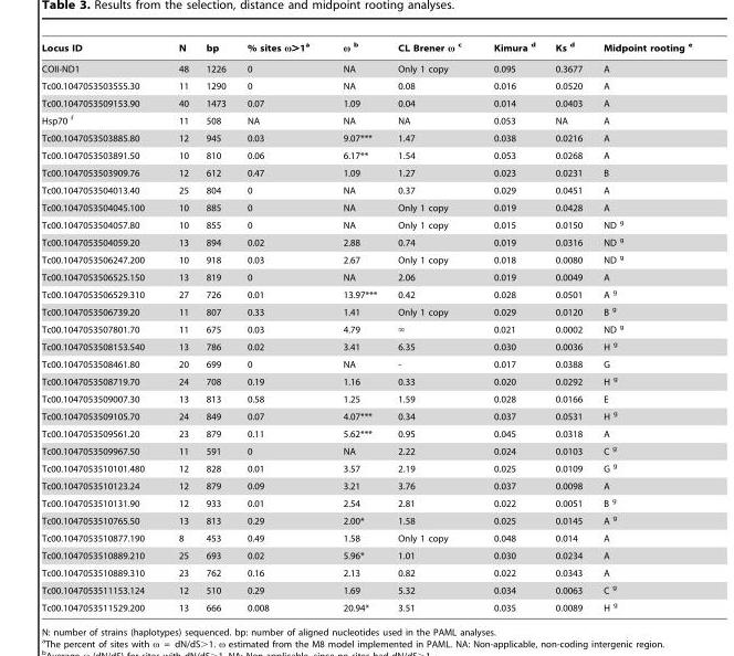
<table><thead><tr><td>Locus ID</td><td>N</td><td>bp</td><td>% sites ω&gt;1<sup>a</sup></td><td>ω b</td><td>CL Brener ω c</td><td>Kimura d</td><td>Ks d</td><td>Midpoint rooting e</td></tr></thead><tbody><tr><td>COII-ND1</td><td>48</td><td>1226</td><td>0</td><td>NA</td><td>Only 1 copy</td><td>0.095</td><td>0.3677</td><td>A</td></tr><tr><td>Tc00.1047053503555.30</td><td>11</td><td>1290</td><td>0</td><td>NA</td><td>0.08</td><td>0.016</td><td>0.0520</td><td>A</td></tr><tr><td>Tc00.1047053509153.90</td><td>40</td><td>1473</td><td>0.07</td><td>1.09</td><td>0.04</td><td>0.014</td><td>0.0403</td><td>A</td></tr><tr><td>Hsp70 f</td><td>11</td><td>508</td><td>NA</td><td>NA</td><td>NA</td><td>0.053</td><td>NA</td><td>A</td></tr><tr><td>Tc00.1047053503885.80</td><td>12</td><td>945</td><td>0.03</td><td>9.07***</td><td>1.47</td><td>0.038</td><td>0.0216</td><td>A</td></tr><tr><td>Tc00.1047053503891.50</td><td>10</td><td>810</td><td>0.06</td><td>6.17**</td><td>1.54</td><td>0.053</td><td>0.0268</td><td>A</td></tr><tr><td>Tc00.1047053503909.76</td><td>12</td><td>612</td><td>0.47</td><td>1.09</td><td>1.27</td><td>0.023</td><td>0.0231</td><td>B</td></tr><tr><td>Tc00.1047053504013.40</td><td>25</td><td>804</td><td>0</td><td>NA</td><td>0.37</td><td>0.029</td><td>0.0451</td><td>A</td></tr><tr><td>Tc00.1047053504045.100</td><td>10</td><td>885</td><td>0</td><td>NA</td><td>Only 1 copy</td><td>0.019</td><td>0.0428</td><td>A</td></tr><tr><td>Tc00.1047053504057.80</td><td>10</td><td>855</td><td>0</td><td>NA</td><td>Only 1 copy</td><td>0.015</td><td>0.0150</td><td>ND g</td></tr><tr><td>Tc00.1047053504059.20</td><td>13</td><td>894</td><td>0.02</td><td>2.88</td><td>0.74</td><td>0.019</td><td>0.0316</td><td>ND g</td></tr><tr><td>Tc00.1047053506247.200</td><td>10</td><td>918</td><td>0.03</td><td>2.67</td><td>Only 1 copy</td><td>0.018</td><td>0.0080</td><td>ND g</td></tr><tr><td>Tc00.1047053506525.150</td><td>13</td><td>819</td><td>0</td><td>NA</td><td>2.06</td><td>0.019</td><td>0.0049</td><td>A</td></tr><tr><td>Tc00.1047053506529.310</td><td>27</td><td>726</td><td>0.01</td><td>13.97***</td><td>0.42</td><td>0.028</td><td>0.0501</td><td>A g</td></tr><tr><td>Tc00.1047053506739.20</td><td>11</td><td>807</td><td>0.33</td><td>1.41</td><td>Only 1 copy</td><td>0.029</td><td>0.0120</td><td>B g</td></tr><tr><td>Tc00.1047053507801.70</td><td>11</td><td>675</td><td>0.03</td><td>4.79</td><td>‘</td><td>0.021</td><td>0.0002</td><td>ND g</td></tr><tr><td>Tc00.1047053508153.540</td><td>13</td><td>786</td><td>0.02</td><td>3.41</td><td>6.35</td><td>0.030</td><td>0.0036</td><td>H g</td></tr><tr><td>Tc00.1047053508461.80</td><td>20</td><td>699</td><td>0</td><td>NA</td><td>-</td><td>0.017</td><td>0.0388</td><td>G</td></tr><tr><td>Tc00.1047053508719.70</td><td>24</td><td>708</td><td>0.19</td><td>1.16</td><td>0.33</td><td>0.020</td><td>0.0292</td><td>H g</td></tr><tr><td>Tc00.1047053509007.30</td><td>13</td><td>813</td><td>0.58</td><td>1.25</td><td>1.59</td><td>0.028</td><td>0.0166</td><td>E</td></tr><tr><td>Tc00.1047053509105.70</td><td>24</td><td>849</td><td>0.07</td><td>4.07***</td><td>0.34</td><td>0.037</td><td>0.0531</td><td>H g</td></tr><tr><td>Tc00.1047053509561.20</td><td>23</td><td>879</td><td>0.11</td><td>5.62***</td><td>0.95</td><td>0.045</td><td>0.0318</td><td>A</td></tr><tr><td>Tc00.1047053509967.50</td><td>11</td><td>591</td><td>0</td><td>NA</td><td>2.22</td><td>0.024</td><td>0.0103</td><td>C g</td></tr><tr><td>Tc00.1047053510101.480</td><td>12</td><td>828</td><td>0.01</td><td>3.57</td><td>2.19</td><td>0.025</td><td>0.0109</td><td>G g</td></tr><tr><td>Tc00.1047053510123.24</td><td>12</td><td>879</td><td>0.09</td><td>3.21</td><td>3.76</td><td>0.037</td><td>0.0098</td><td>A</td></tr><tr><td>Tc00.1047053510131.90</td><td>12</td><td>933</td><td>0.01</td><td>2.54</td><td>2.81</td><td>0.022</td><td>0.0051</td><td>B g</td></tr><tr><td>Tc00.1047053510765.50</td><td>13</td><td>813</td><td>0.29</td><td>2.00*</td><td>1.58</td><td>0.025</td><td>0.0145</td><td>A g</td></tr><tr><td>Tc00.1047053510877.190</td><td>8</td><td>453</td><td>0.49</td><td>1.58</td><td>Only 1 copy</td><td>0.048</td><td>0.014</td><td>A</td></tr><tr><td>Tc00.1047053510889.210</td><td>25</td><td>693</td><td>0.02</td><td>5.96*</td><td>1.01</td><td>0.030</td><td>0.0234</td><td>A</td></tr><tr><td>Tc00.1047053510889.310</td><td>23</td><td>762</td><td>0.16</td><td>2.13</td><td>0.82</td><td>0.022</td><td>0.0343</td><td>A</td></tr><tr><td>Tc00.1047053511153.124</td><td>12</td><td>510</td><td>0.29</td><td>1.69</td><td>5.32</td><td>0.034</td><td>0.0063</td><td>C g</td></tr><tr><td>Tc00.1047053511529.200</td><td>13</td><td>666</td><td>0.008</td><td>20.94*</td><td>3.51</td><td>0.035</td><td>0.0089</td><td>H g</td></tr></tbody></table>